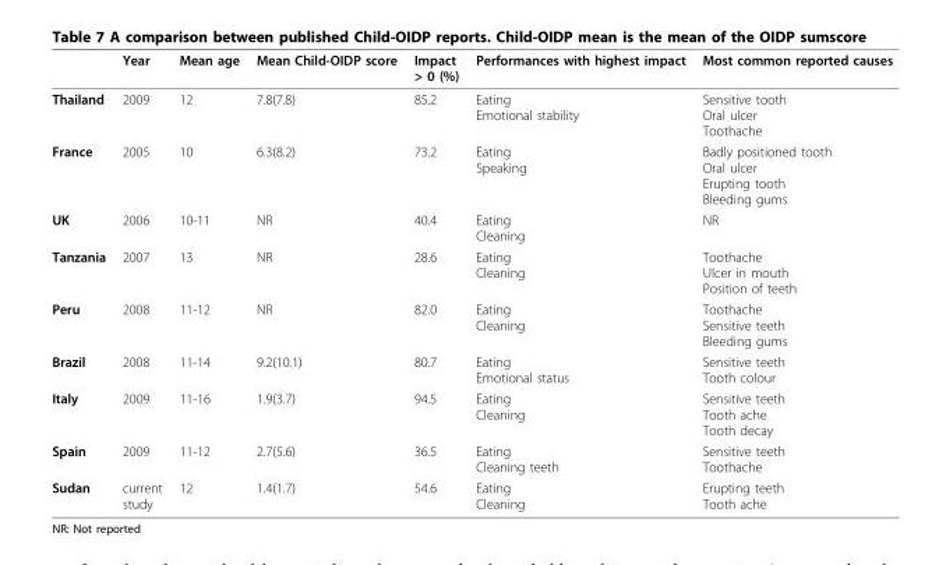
<table><thead><tr><td></td><td>Year</td><td>Mean age</td><td>Mean Child-OIDP score</td><td>Impact &gt; 0 (%)</td><td>Performances with highest impact</td><td>Most common reported causes</td></tr></thead><tbody><tr><td>Thailand</td><td>2009</td><td>12</td><td>7.8(7.8)</td><td>85.2</td><td>Eating Emotional stability</td><td>Sensitive tooth Oral ulcer Toothache</td></tr><tr><td>France</td><td>2005</td><td>10</td><td>6.3(8.2)</td><td>73.2</td><td>Eating Speaking</td><td>Badly positioned tooth Oral ulcer Erupting tooth Bleeding gums</td></tr><tr><td>UK</td><td>2006</td><td>10-11</td><td>NR</td><td>40.4</td><td>Eating Cleaning</td><td>NR</td></tr><tr><td>Tanzania</td><td>2007</td><td>13</td><td>NR</td><td>28.6</td><td>Eating Cleaning</td><td>Toothache Ulcer in mouth Position of teeth</td></tr><tr><td>Peru</td><td>2008</td><td>11-12</td><td>NR</td><td>82.0</td><td>Eating Cleaning</td><td>Toothache Sensitive teeth Bleeding gums</td></tr><tr><td>Brazil</td><td>2008</td><td>11-14</td><td>9.2(10.1)</td><td>80.7</td><td>Eating Emotional status</td><td>Sensitive teeth Tooth colour</td></tr><tr><td>Italy</td><td>2009</td><td>11-16</td><td>1.9(3.7)</td><td>94.5</td><td>Eating Cleaning</td><td>Sensitive teeth Tooth ache Tooth decay</td></tr><tr><td>Spain</td><td>2009</td><td>11-12</td><td>2.7(5.6)</td><td>36.5</td><td>Eating Cleaning teeth</td><td>Sensitive teeth Toothache</td></tr><tr><td>Sudan</td><td>current study</td><td>12</td><td>1.4(1.7)</td><td>54.6</td><td>Eating Cleaning</td><td>Erupting teeth Tooth ache</td></tr></tbody></table>